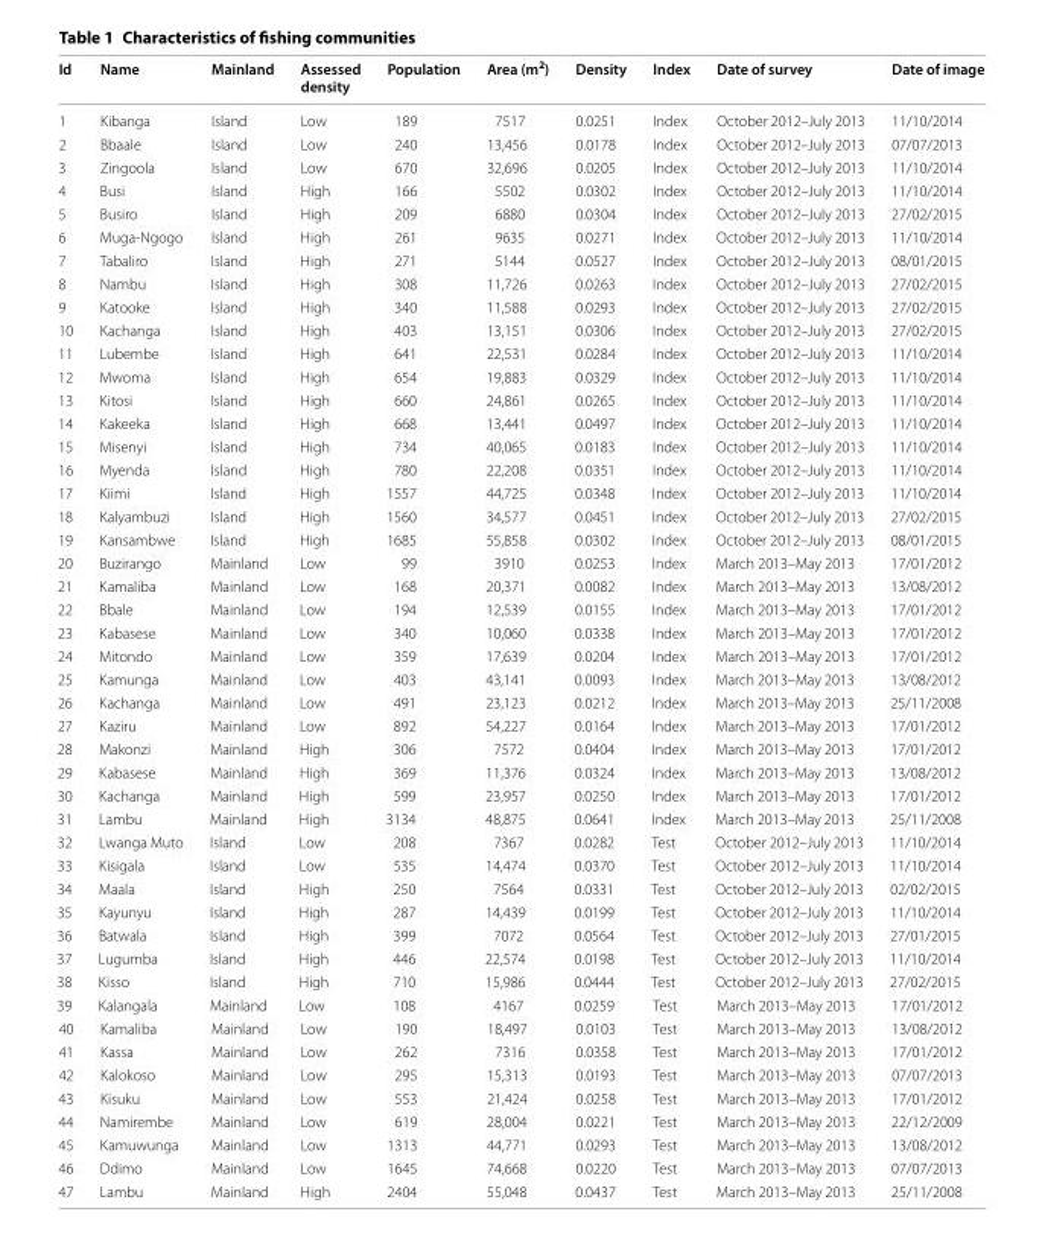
<table><thead><tr><td>Id</td><td>Name</td><td>Mainland</td><td>Assessed density</td><td>Population</td><td>Area (m<sup>2</sup>)</td><td>Density</td><td>Index</td><td>Date of survey</td><td>Date of image</td></tr></thead><tbody><tr><td>1</td><td>Kibanga</td><td>Island</td><td>Low</td><td>189</td><td>7517</td><td>0.0251</td><td>Index</td><td>October 2012–July 2013</td><td>11/10/2014</td></tr><tr><td>2</td><td>Bbaale</td><td>Island</td><td>Low</td><td>240</td><td>13,456</td><td>0.0178</td><td>Index</td><td>October 2012–July 2013</td><td>07/07/2013</td></tr><tr><td>3</td><td>Zingoola</td><td>Island</td><td>Low</td><td>670</td><td>32,696</td><td>0.0205</td><td>Index</td><td>October 2012–July 2013</td><td>11/10/2014</td></tr><tr><td>4</td><td>Busi</td><td>Island</td><td>High</td><td>166</td><td>5502</td><td>0.0302</td><td>Index</td><td>October 2012–July 2013</td><td>11/10/2014</td></tr><tr><td>5</td><td>Busiro</td><td>Island</td><td>High</td><td>209</td><td>6880</td><td>0.0304</td><td>Index</td><td>October 2012–July 2013</td><td>27/02/2015</td></tr><tr><td>6</td><td>Muga-Ngogo</td><td>Island</td><td>High</td><td>261</td><td>9635</td><td>0.0271</td><td>Index</td><td>October 2012–July 2013</td><td>11/10/2014</td></tr><tr><td>7</td><td>Tabaliro</td><td>Island</td><td>High</td><td>271</td><td>5144</td><td>0.0527</td><td>Index</td><td>October 2012–July 2013</td><td>08/01/2015</td></tr><tr><td>8</td><td>Nambu</td><td>Island</td><td>High</td><td>308</td><td>11,726</td><td>0.0263</td><td>Index</td><td>October 2012–July 2013</td><td>27/02/2015</td></tr><tr><td>9</td><td>Katooke</td><td>Island</td><td>High</td><td>340</td><td>11,588</td><td>0.0293</td><td>Index</td><td>October 2012–July 2013</td><td>27/02/2015</td></tr><tr><td>10</td><td>Kachanga</td><td>Island</td><td>High</td><td>403</td><td>13,151</td><td>0.0306</td><td>Index</td><td>October 2012–July 2013</td><td>27/02/2015</td></tr><tr><td>11</td><td>Lubembe</td><td>Island</td><td>High</td><td>641</td><td>22,531</td><td>0.0284</td><td>Index</td><td>October 2012–July 2013</td><td>11/10/2014</td></tr><tr><td>12</td><td>Mwoma</td><td>Island</td><td>High</td><td>654</td><td>19,883</td><td>0.0329</td><td>Index</td><td>October 2012–July 2013</td><td>11/10/2014</td></tr><tr><td>13</td><td>Kitosi</td><td>Island</td><td>High</td><td>660</td><td>24,861</td><td>0.0265</td><td>Index</td><td>October 2012–July 2013</td><td>11/10/2014</td></tr><tr><td>14</td><td>Kakeeka</td><td>Island</td><td>High</td><td>668</td><td>13,441</td><td>0.0497</td><td>Index</td><td>October 2012–July 2013</td><td>11/10/2014</td></tr><tr><td>15</td><td>Misenyi</td><td>Island</td><td>High</td><td>734</td><td>40,065</td><td>0.0183</td><td>Index</td><td>October 2012–July 2013</td><td>11/10/2014</td></tr><tr><td>16</td><td>Myenda</td><td>Island</td><td>High</td><td>780</td><td>22,208</td><td>0.0351</td><td>Index</td><td>October 2012–July 2013</td><td>11/10/2014</td></tr><tr><td>17</td><td>Kiimi</td><td>Island</td><td>High</td><td>1557</td><td>44,725</td><td>0.0348</td><td>Index</td><td>October 2012–July 2013</td><td>11/10/2014</td></tr><tr><td>18</td><td>Kalyambuzi</td><td>Island</td><td>High</td><td>1560</td><td>34,577</td><td>0.0451</td><td>Index</td><td>October 2012–July 2013</td><td>27/02/2015</td></tr><tr><td>19</td><td>Kansambwe</td><td>Island</td><td>High</td><td>1685</td><td>55,858</td><td>0.0302</td><td>Index</td><td>October 2012–July 2013</td><td>08/01/2015</td></tr><tr><td>20</td><td>Buzirango</td><td>Mainland</td><td>Low</td><td>99</td><td>3910</td><td>0.0253</td><td>Index</td><td>March 2013–May 2013</td><td>17/01/2012</td></tr><tr><td>21</td><td>Kamaliba</td><td>Mainland</td><td>Low</td><td>168</td><td>20,371</td><td>0.0082</td><td>Index</td><td>March 2013–May 2013</td><td>13/08/2012</td></tr><tr><td>22</td><td>Bbale</td><td>Mainland</td><td>Low</td><td>194</td><td>12,539</td><td>0.0155</td><td>Index</td><td>March 2013–May 2013</td><td>17/01/2012</td></tr><tr><td>23</td><td>Kabasese</td><td>Mainland</td><td>Low</td><td>340</td><td>10,060</td><td>0.0338</td><td>Index</td><td>March 2013–May 2013</td><td>17/01/2012</td></tr><tr><td>24</td><td>Mitondo</td><td>Mainland</td><td>Low</td><td>359</td><td>17,639</td><td>0.0204</td><td>Index</td><td>March 2013–May 2013</td><td>17/01/2012</td></tr><tr><td>25</td><td>Kamunga</td><td>Mainland</td><td>Low</td><td>403</td><td>43,141</td><td>0.0093</td><td>Index</td><td>March 2013–May 2013</td><td>13/08/2012</td></tr><tr><td>26</td><td>Kachanga</td><td>Mainland</td><td>Low</td><td>491</td><td>23,123</td><td>0.0212</td><td>Index</td><td>March 2013–May 2013</td><td>25/11/2008</td></tr><tr><td>27</td><td>Kaziru</td><td>Mainland</td><td>Low</td><td>892</td><td>54,227</td><td>0.0164</td><td>Index</td><td>March 2013–May 2013</td><td>17/01/2012</td></tr><tr><td>28</td><td>Makonzi</td><td>Mainland</td><td>High</td><td>306</td><td>7572</td><td>0.0404</td><td>Index</td><td>March 2013–May 2013</td><td>17/01/2012</td></tr><tr><td>29</td><td>Kabasese</td><td>Mainland</td><td>High</td><td>369</td><td>11,376</td><td>0.0324</td><td>Index</td><td>March 2013–May 2013</td><td>13/08/2012</td></tr><tr><td>30</td><td>Kachanga</td><td>Mainland</td><td>High</td><td>599</td><td>23,957</td><td>0.0250</td><td>Index</td><td>March 2013–May 2013</td><td>17/01/2012</td></tr><tr><td>31</td><td>Lambu</td><td>Mainland</td><td>High</td><td>3134</td><td>48,875</td><td>0.0641</td><td>Index</td><td>March 2013–May 2013</td><td>25/11/2008</td></tr><tr><td>32</td><td>Lwanga Muto</td><td>Island</td><td>Low</td><td>208</td><td>7367</td><td>0.0282</td><td>Test</td><td>October 2012–July 2013</td><td>11/10/2014</td></tr><tr><td>33</td><td>Kisigala</td><td>Island</td><td>Low</td><td>535</td><td>14,474</td><td>0.0370</td><td>Test</td><td>October 2012–July 2013</td><td>11/10/2014</td></tr><tr><td>34</td><td>Maala</td><td>Island</td><td>High</td><td>250</td><td>7564</td><td>0.0331</td><td>Test</td><td>October 2012–July 2013</td><td>02/02/2015</td></tr><tr><td>35</td><td>Kayunyu</td><td>Island</td><td>High</td><td>287</td><td>14,439</td><td>0.0199</td><td>Test</td><td>October 2012–July 2013</td><td>11/10/2014</td></tr><tr><td>36</td><td>Batwala</td><td>Island</td><td>High</td><td>399</td><td>7072</td><td>0.0564</td><td>Test</td><td>October 2012–July 2013</td><td>27/01/2015</td></tr><tr><td>37</td><td>Lugumba</td><td>Island</td><td>High</td><td>446</td><td>22,574</td><td>0.0198</td><td>Test</td><td>October 2012–July 2013</td><td>11/10/2014</td></tr><tr><td>38</td><td>Kisso</td><td>Island</td><td>High</td><td>710</td><td>15,986</td><td>0.0444</td><td>Test</td><td>October 2012–July 2013</td><td>27/02/2015</td></tr><tr><td>39</td><td>Kalangala</td><td>Mainland</td><td>Low</td><td>108</td><td>4167</td><td>0.0259</td><td>Test</td><td>March 2013–May 2013</td><td>17/01/2012</td></tr><tr><td>40</td><td>Kamaliba</td><td>Mainland</td><td>Low</td><td>190</td><td>18,497</td><td>0.0103</td><td>Test</td><td>March 2013–May 2013</td><td>13/08/2012</td></tr><tr><td>41</td><td>Kassa</td><td>Mainland</td><td>Low</td><td>262</td><td>7316</td><td>0.0358</td><td>Test</td><td>March 2013–May 2013</td><td>17/01/2012</td></tr><tr><td>42</td><td>Kalokoso</td><td>Mainland</td><td>Low</td><td>295</td><td>15,313</td><td>0.0193</td><td>Test</td><td>March 2013–May 2013</td><td>07/07/2013</td></tr><tr><td>43</td><td>Kisuku</td><td>Mainland</td><td>Low</td><td>553</td><td>21,424</td><td>0.0258</td><td>Test</td><td>March 2013–May 2013</td><td>17/01/2012</td></tr><tr><td>44</td><td>Namirembe</td><td>Mainland</td><td>Low</td><td>619</td><td>28,004</td><td>0.0221</td><td>Test</td><td>March 2013–May 2013</td><td>22/12/2009</td></tr><tr><td>45</td><td>Kamuwunga</td><td>Mainland</td><td>Low</td><td>1313</td><td>44,771</td><td>0.0293</td><td>Test</td><td>March 2013–May 2013</td><td>13/08/2012</td></tr><tr><td>46</td><td>Ddimo</td><td>Mainland</td><td>Low</td><td>1645</td><td>74,668</td><td>0.0220</td><td>Test</td><td>March 2013–May 2013</td><td>07/07/2013</td></tr><tr><td>47</td><td>Lambu</td><td>Mainland</td><td>High</td><td>2404</td><td>55,048</td><td>0.0437</td><td>Test</td><td>March 2013–May 2013</td><td>25/11/2008</td></tr></tbody></table>